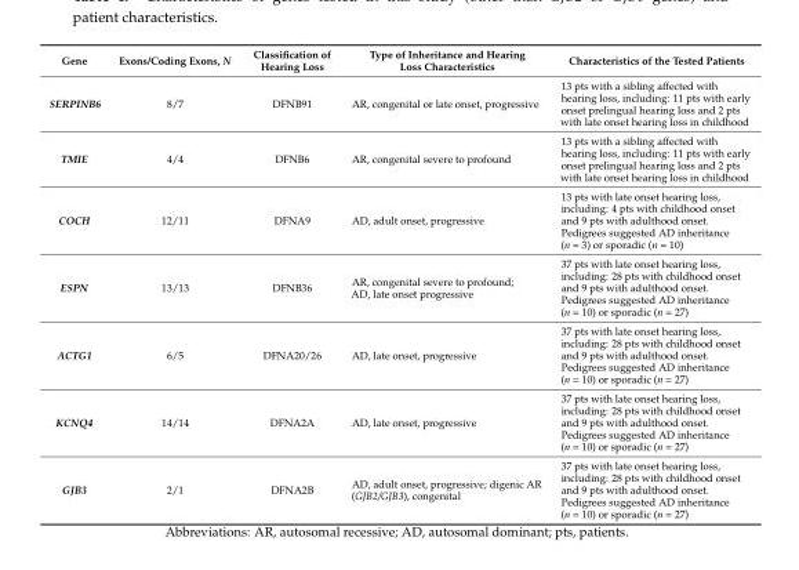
<table><thead><tr><td>Gene</td><td>Exons/Coding Exons, N</td><td>Classification of Hearing Loss</td><td>Type of Inheritance and Hearing Loss Characteristics</td><td>Characteristics of the Tested Patients</td></tr></thead><tbody><tr><td>SERPINB6</td><td>8/7</td><td>DFNB91</td><td>AR, congenital or late onset, progressive</td><td>13 pts with a sibling affected with hearing loss, including: 11 pts with early onset prelingual hearing loss and 2 pts with late onset hearing loss in childhood</td></tr><tr><td>TMIE</td><td>4/4</td><td>DFNB6</td><td>AR, congenital severe to profound</td><td>13 pts with a sibling affected with hearing loss, including: 11 pts with early onset prelingual hearing loss and 2 pts with late onset hearing loss in childhood</td></tr><tr><td>COCH</td><td>12/11</td><td>DFNA9</td><td>AD, adult onset, progressive</td><td>13 pts with late onset hearing loss, including: 4 pts with childhood onset and 9 pts with adulthood onset. Pedigrees suggested AD inheritance (n = 3) or sporadic (n = 10)</td></tr><tr><td>ESPN</td><td>13/13</td><td>DFNB36</td><td>AR, congenital severe to profound; AD, late onset progressive</td><td>37 pts with late onset hearing loss, including: 28 pts with childhood onset and 9 pts with adulthood onset. Pedigrees suggested AD inheritance (n = 10) or sporadic (n = 27)</td></tr><tr><td>ACTG1</td><td>6/5</td><td>DFNA20/26</td><td>AD, late onset, progressive</td><td>37 pts with late onset hearing loss, including: 28 pts with childhood onset and 9 pts with adulthood onset. Pedigrees suggested AD inheritance (n = 10) or sporadic (n = 27)</td></tr><tr><td>KCNQ4</td><td>14/14</td><td>DFNA2A</td><td>AD, late onset, progressive</td><td>37 pts with late onset hearing loss, including: 28 pts with childhood onset and 9 pts with adulthood onset. Pedigrees suggested AD inheritance (n = 10) or sporadic (n = 27)</td></tr><tr><td>GJB3</td><td>2/1</td><td>DFNA2B</td><td>AD, adult onset, progressive; digenic AR (GJB2/GJB3), congenital</td><td>37 pts with late onset hearing loss, including: 28 pts with childhood onset and 9 pts with adulthood onset. Pedigrees suggested AD inheritance (n = 10) or sporadic (n = 27)</td></tr></tbody></table>